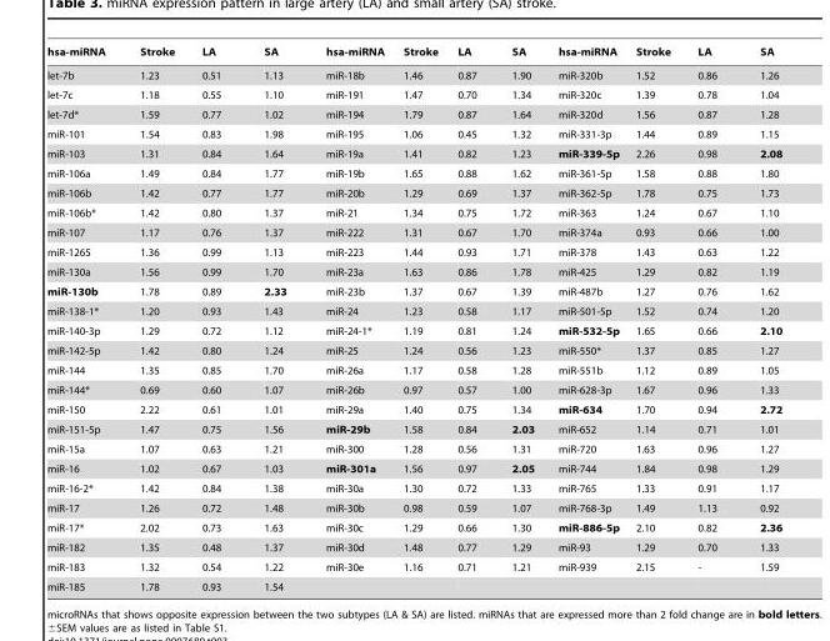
<table><thead><tr><td>hsa-miRNA</td><td>Stroke</td><td>LA</td><td>SA</td><td>hsa-miRNA</td><td>Stroke</td><td>LA</td><td>SA</td><td>hsa-miRNA</td><td>Stroke</td><td>LA</td><td>SA</td></tr></thead><tbody><tr><td>let-7b</td><td>1.23</td><td>0.51</td><td>1.13</td><td>miR-18b</td><td>1.46</td><td>0.87</td><td>1.90</td><td>miR-320b</td><td>1.52</td><td>0.86</td><td>1.26</td></tr><tr><td>let-7c</td><td>1.18</td><td>0.55</td><td>1.10</td><td>miR-191</td><td>1.47</td><td>0.70</td><td>1.34</td><td>miR-320c</td><td>1.39</td><td>0.78</td><td>1.04</td></tr><tr><td>let-7d*</td><td>1.59</td><td>0.77</td><td>1.02</td><td>miR-194</td><td>1.79</td><td>0.87</td><td>1.64</td><td>miR-320d</td><td>1.56</td><td>0.87</td><td>1.28</td></tr><tr><td>miR-101</td><td>1.54</td><td>0.83</td><td>1.98</td><td>miR-195</td><td>1.06</td><td>0.45</td><td>1.32</td><td>miR-331-3p</td><td>1.44</td><td>0.89</td><td>1.15</td></tr><tr><td>miR-103</td><td>1.31</td><td>0.84</td><td>1.64</td><td>miR-19a</td><td>1.41</td><td>0.82</td><td>1.23</td><td>miR-339-5p</td><td>2.26</td><td>0.98</td><td>2.08</td></tr><tr><td>miR-106a</td><td>1.49</td><td>0.84</td><td>1.77</td><td>miR-19b</td><td>1.65</td><td>0.88</td><td>1.62</td><td>miR-361-5p</td><td>1.58</td><td>0.88</td><td>1.80</td></tr><tr><td>miR-106b</td><td>1.42</td><td>0.77</td><td>1.77</td><td>miR-20b</td><td>1.29</td><td>0.69</td><td>1.37</td><td>miR-362-5p</td><td>1.78</td><td>0.75</td><td>1.73</td></tr><tr><td>miR-106b*</td><td>1.42</td><td>0.80</td><td>1.37</td><td>miR-21</td><td>1.34</td><td>0.75</td><td>1.72</td><td>miR-363</td><td>1.24</td><td>0.67</td><td>1.10</td></tr><tr><td>miR-107</td><td>1.17</td><td>0.76</td><td>1.37</td><td>miR-222</td><td>1.31</td><td>0.67</td><td>1.70</td><td>miR-374a</td><td>0.93</td><td>0.66</td><td>1.00</td></tr><tr><td>miR-1265</td><td>1.36</td><td>0.99</td><td>1.13</td><td>miR-223</td><td>1.44</td><td>0.93</td><td>1.71</td><td>miR-378</td><td>1.43</td><td>0.63</td><td>1.22</td></tr><tr><td>miR-130a</td><td>1.56</td><td>0.99</td><td>1.70</td><td>miR-23a</td><td>1.63</td><td>0.86</td><td>1.78</td><td>miR-425</td><td>1.29</td><td>0.82</td><td>1.19</td></tr><tr><td>miR-130b</td><td>1.78</td><td>0.89</td><td>2.33</td><td>miR-23b</td><td>1.37</td><td>0.67</td><td>1.39</td><td>miR-487b</td><td>1.27</td><td>0.76</td><td>1.62</td></tr><tr><td>miR-138-1*</td><td>1.20</td><td>0.93</td><td>1.43</td><td>miR-24</td><td>1.23</td><td>0.58</td><td>1.17</td><td>miR-501-5p</td><td>1.52</td><td>0.74</td><td>1.20</td></tr><tr><td>miR-140-3p</td><td>1.29</td><td>0.72</td><td>1.12</td><td>miR-24-1*</td><td>1.19</td><td>0.81</td><td>1.24</td><td>miR-532-5p</td><td>1.65</td><td>0.66</td><td>2.10</td></tr><tr><td>miR-142-5p</td><td>1.42</td><td>0.80</td><td>1.24</td><td>miR-25</td><td>1.24</td><td>0.56</td><td>1.23</td><td>miR-550*</td><td>1.37</td><td>0.85</td><td>1.27</td></tr><tr><td>miR-144</td><td>1.35</td><td>0.85</td><td>1.70</td><td>miR-26a</td><td>1.17</td><td>0.58</td><td>1.28</td><td>miR-551b</td><td>1.12</td><td>0.89</td><td>1.05</td></tr><tr><td>miR-144*</td><td>0.69</td><td>0.60</td><td>1.07</td><td>miR-26b</td><td>0.97</td><td>0.57</td><td>1.00</td><td>miR-628-3p</td><td>1.67</td><td>0.96</td><td>1.33</td></tr><tr><td>miR-150</td><td>2.22</td><td>0.61</td><td>1.01</td><td>miR-29a</td><td>1.40</td><td>0.75</td><td>1.34</td><td>miR-634</td><td>1.70</td><td>0.94</td><td>2.72</td></tr><tr><td>miR-151-5p</td><td>1.47</td><td>0.75</td><td>1.56</td><td>miR-29b</td><td>1.58</td><td>0.84</td><td>2.03</td><td>miR-652</td><td>1.14</td><td>0.71</td><td>1.01</td></tr><tr><td>miR-15a</td><td>1.07</td><td>0.63</td><td>1.21</td><td>miR-300</td><td>1.28</td><td>0.56</td><td>1.31</td><td>miR-720</td><td>1.63</td><td>0.96</td><td>1.27</td></tr><tr><td>miR-16</td><td>1.02</td><td>0.67</td><td>1.03</td><td>miR-301a</td><td>1.56</td><td>0.97</td><td>2.05</td><td>miR-744</td><td>1.84</td><td>0.98</td><td>1.29</td></tr><tr><td>miR-16-2*</td><td>1.42</td><td>0.84</td><td>1.38</td><td>miR-30a</td><td>1.30</td><td>0.72</td><td>1.33</td><td>miR-765</td><td>1.33</td><td>0.91</td><td>1.17</td></tr><tr><td>miR-17</td><td>1.26</td><td>0.72</td><td>1.48</td><td>miR-30b</td><td>0.98</td><td>0.59</td><td>1.07</td><td>miR-768-3p</td><td>1.49</td><td>1.13</td><td>0.92</td></tr><tr><td>miR-17*</td><td>2.02</td><td>0.73</td><td>1.63</td><td>miR-30c</td><td>1.29</td><td>0.66</td><td>1.30</td><td>miR-886-5p</td><td>2.10</td><td>0.82</td><td>2.36</td></tr><tr><td>miR-182</td><td>1.35</td><td>0.48</td><td>1.37</td><td>miR-30d</td><td>1.48</td><td>0.77</td><td>1.29</td><td>miR-93</td><td>1.29</td><td>0.70</td><td>1.33</td></tr><tr><td>miR-183</td><td>1.32</td><td>0.54</td><td>1.22</td><td>miR-30e</td><td>1.16</td><td>0.71</td><td>1.21</td><td>miR-939</td><td>2.15</td><td>-</td><td>1.59</td></tr><tr><td>miR-185</td><td>1.78</td><td>0.93</td><td>1.54</td><td></td><td></td><td></td><td></td><td></td><td></td><td></td><td></td></tr></tbody></table>